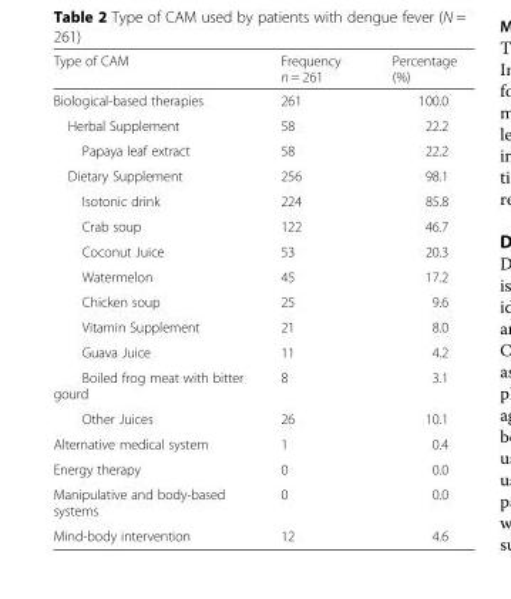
<table><thead><tr><td>Type of CAM</td><td>Frequency n = 261</td><td>Percentage (%)</td></tr></thead><tbody><tr><td>Biological-based therapies</td><td>261</td><td>100.0</td></tr><tr><td>Herbal Supplement</td><td>58</td><td>22.2</td></tr><tr><td>Papaya leaf extract</td><td>58</td><td>22.2</td></tr><tr><td>Dietary Supplement</td><td>256</td><td>98.1</td></tr><tr><td>Isotonic drink</td><td>224</td><td>85.8</td></tr><tr><td>Crab soup</td><td>122</td><td>46.7</td></tr><tr><td>Coconut Juice</td><td>53</td><td>20.3</td></tr><tr><td>Watermelon</td><td>45</td><td>17.2</td></tr><tr><td>Chicken soup</td><td>25</td><td>9.6</td></tr><tr><td>Vitamin Supplement</td><td>21</td><td>8.0</td></tr><tr><td>Guava Juice</td><td>11</td><td>4.2</td></tr><tr><td>Boiled frog meat with bitter gourd</td><td>8</td><td>3.1</td></tr><tr><td>Other Juices</td><td>26</td><td>10.1</td></tr><tr><td>Alternative medical system</td><td>1</td><td>0.4</td></tr><tr><td>Energy therapy</td><td>0</td><td>0.0</td></tr><tr><td>Manipulative and body-based systems</td><td>0</td><td>0.0</td></tr><tr><td>Mind-body intervention</td><td>12</td><td>4.6</td></tr></tbody></table>